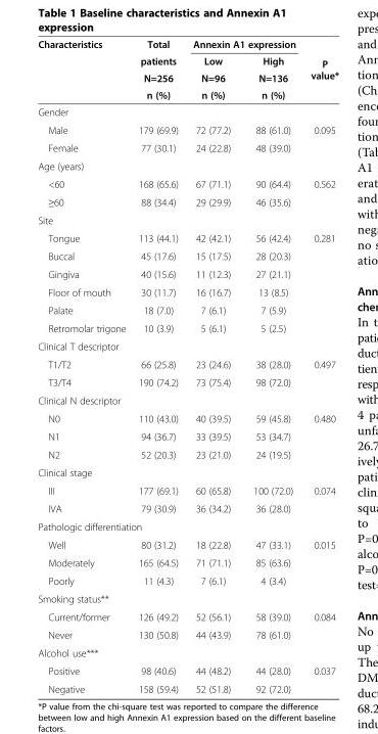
<table><thead><tr><td rowspan="4">Characteristics</td><td rowspan="4">Total patients N=256 n (%)</td><td colspan="2">Annexin A1 expression</td><td rowspan="4">P value*</td></tr><tr><td rowspan="3">Low N=96 n (%)</td><td rowspan="3">High N=136 n (%)</td></tr><tr></tr><tr></tr></thead><tbody><tr><td colspan="5">Gender</td></tr><tr><td>Male</td><td>179 (69.9)</td><td>72 (77.2)</td><td>88 (61.0)</td><td>0.095</td></tr><tr><td>Female</td><td>77 (30.1)</td><td>24 (22.8)</td><td>48 (39.0)</td><td></td></tr><tr><td colspan="5">Age (years)</td></tr><tr><td>&lt;60</td><td>168 (65.6)</td><td>67 (71.1)</td><td>90 (64.4)</td><td>0.562</td></tr><tr><td>≥60</td><td>88 (34.4)</td><td>29 (29.9)</td><td>46 (35.6)</td><td></td></tr><tr><td colspan="5">Site</td></tr><tr><td>Tongue</td><td>113 (44.1)</td><td>42 (42.1)</td><td>56 (42.4)</td><td>0.281</td></tr><tr><td>Buccal</td><td>45 (17.6)</td><td>15 (17.5)</td><td>28 (20.3)</td><td></td></tr><tr><td>Gingiva</td><td>40 (15.6)</td><td>11 (12.3)</td><td>27 (21.1)</td><td></td></tr><tr><td>Floor of mouth</td><td>30 (11.7)</td><td>16 (16.7)</td><td>13 (8.5)</td><td></td></tr><tr><td>Palate</td><td>18 (7.0)</td><td>7 (6.1)</td><td>7 (5.9)</td><td></td></tr><tr><td>Retromolar trigone</td><td>10 (3.9)</td><td>5 (6.1)</td><td>5 (2.5)</td><td></td></tr><tr><td colspan="5">Clinical T descriptor</td></tr><tr><td>T1/T2</td><td>66 (25.8)</td><td>23 (24.6)</td><td>38 (28.0)</td><td>0.497</td></tr><tr><td>T3/T4</td><td>190 (74.2)</td><td>73 (75.4)</td><td>98 (72.0)</td><td></td></tr><tr><td colspan="5">Clinical N descriptor</td></tr><tr><td>N0</td><td>110 (43.0)</td><td>40 (39.5)</td><td>59 (45.8)</td><td>0.480</td></tr><tr><td>N1</td><td>94 (36.7)</td><td>33 (39.5)</td><td>53 (34.7)</td><td></td></tr><tr><td>N2</td><td>52 (20.3)</td><td>23 (21.0)</td><td>24 (19.5)</td><td></td></tr><tr><td colspan="5">Clinical stage</td></tr><tr><td>III</td><td>177 (69.1)</td><td>60 (65.8)</td><td>100 (72.0)</td><td>0.074</td></tr><tr><td>IVA</td><td>79 (30.9)</td><td>36 (34.2)</td><td>36 (28.0)</td><td></td></tr><tr><td colspan="5">Pathologic differentiation</td></tr><tr><td>Well</td><td>80 (31.2)</td><td>18 (22.8)</td><td>47 (33.1)</td><td>0.015</td></tr><tr><td>Moderately</td><td>165 (64.5)</td><td>71 (71.1)</td><td>85 (63.6)</td><td></td></tr><tr><td>Poorly</td><td>11 (4.3)</td><td>7 (6.1)</td><td>4 (3.4)</td><td></td></tr><tr><td colspan="5">Smoking status**</td></tr><tr><td>Current/former</td><td>126 (49.2)</td><td>52 (56.1)</td><td>58 (39.0)</td><td>0.084</td></tr><tr><td>Never</td><td>130 (50.8)</td><td>44 (43.9)</td><td>78 (61.0)</td><td></td></tr><tr><td colspan="5">Alcohol use***</td></tr><tr><td>Positive</td><td>98 (40.6)</td><td>44 (48.2)</td><td>44 (28.0)</td><td>0.037</td></tr><tr><td>Negative</td><td>158 (59.4)</td><td>52 (51.8)</td><td>92 (72.0)</td><td></td></tr></tbody></table>